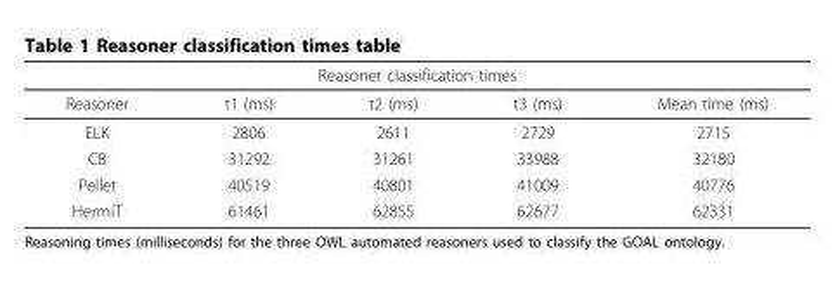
<table><thead><tr><td colspan="5">Reasoner classification times</td></tr><tr><td>Reasoner</td><td>t1 (ms)</td><td>t2 (ms)</td><td>t3 (ms)</td><td>Mean time (ms)</td></tr></thead><tbody><tr><td>ELK</td><td>2806</td><td>2611</td><td>2729</td><td>2715</td></tr><tr><td>CB</td><td>31292</td><td>31261</td><td>33988</td><td>32180</td></tr><tr><td>Pellet</td><td>40519</td><td>40801</td><td>41009</td><td>40776</td></tr><tr><td>HermiT</td><td>61461</td><td>62855</td><td>62677</td><td>62331</td></tr></tbody></table>